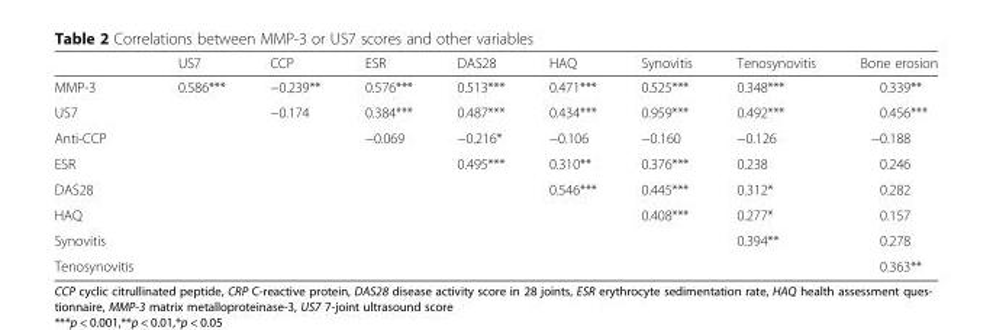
<table><thead><tr><td></td><td>US7</td><td>CCP</td><td>ESR</td><td>DAS28</td><td>HAQ</td><td>Synovitis</td><td>Tenosynovitis</td><td>Bone erosion</td></tr></thead><tbody><tr><td>MMP-3</td><td>0.586***</td><td>−0.239**</td><td>0.576***</td><td>0.513***</td><td>0.471***</td><td>0.525***</td><td>0.348***</td><td>0.339**</td></tr><tr><td>US7</td><td></td><td>−0.174</td><td>0.384***</td><td>0.487***</td><td>0.434***</td><td>0.959***</td><td>0.492***</td><td>0.456***</td></tr><tr><td>Anti-CCP</td><td></td><td></td><td>−0.069</td><td>−0.216*</td><td>−0.106</td><td>−0.160</td><td>−0.126</td><td>−0.188</td></tr><tr><td>ESR</td><td></td><td></td><td></td><td>0.495***</td><td>0.310**</td><td>0.376***</td><td>0.238</td><td>0.246</td></tr><tr><td>DAS28</td><td></td><td></td><td></td><td></td><td>0.546***</td><td>0.445***</td><td>0.312*</td><td>0.282</td></tr><tr><td>HAQ</td><td></td><td></td><td></td><td></td><td></td><td>0.408***</td><td>0.277*</td><td>0.157</td></tr><tr><td>Synovitis</td><td></td><td></td><td></td><td></td><td></td><td></td><td>0.394**</td><td>0.278</td></tr><tr><td>Tenosynovitis</td><td></td><td></td><td></td><td></td><td></td><td></td><td></td><td>0.363**</td></tr></tbody></table>